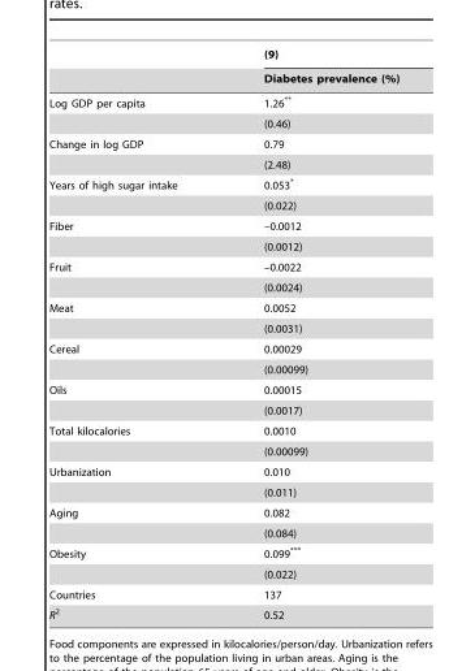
<table><thead><tr><td rowspan="2"></td><td rowspan="2">(9) Diabetes prevalence (%)</td></tr><tr></tr></thead><tbody><tr><td rowspan="2">Log GDP per capita</td><td>1.26**</td></tr><tr><td>(0.46)</td></tr><tr><td rowspan="2">Change in log GDP</td><td>0.79</td></tr><tr><td>(2.48)</td></tr><tr><td rowspan="2">Years of high sugar intake</td><td>0.053*</td></tr><tr><td>(0.022)</td></tr><tr><td rowspan="2">Fiber</td><td>–0.0012</td></tr><tr><td>(0.0012)</td></tr><tr><td rowspan="2">Fruit</td><td>–0.0022</td></tr><tr><td>(0.0024)</td></tr><tr><td rowspan="2">Meat</td><td>0.0052</td></tr><tr><td>(0.0031)</td></tr><tr><td rowspan="2">Cereal</td><td>0.00029</td></tr><tr><td>(0.00099)</td></tr><tr><td rowspan="2">Oils</td><td>0.00015</td></tr><tr><td>(0.0017)</td></tr><tr><td rowspan="2">Total kilocalories</td><td>0.0010</td></tr><tr><td>(0.00099)</td></tr><tr><td rowspan="2">Urbanization</td><td>0.010</td></tr><tr><td>(0.011)</td></tr><tr><td rowspan="2">Aging</td><td>0.082</td></tr><tr><td>(0.084)</td></tr><tr><td rowspan="2">Obesity</td><td>0.099***</td></tr><tr><td>(0.022)</td></tr><tr><td>Countries</td><td>137</td></tr><tr><td>R<sup>2</sup></td><td>0.52</td></tr></tbody></table>